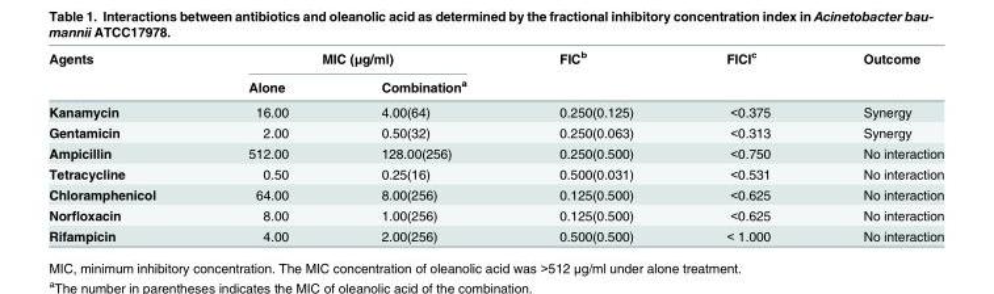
<table><thead><tr><td rowspan="2">Agents</td><td colspan="2">MIC (μg/ml)</td><td rowspan="2">FIC<sup>b</sup></td><td rowspan="2">FICI<sup>c</sup></td><td rowspan="2">Outcome</td></tr><tr><td>Alone</td><td>Combination<sup>a</sup></td></tr></thead><tbody><tr><td>Kanamycin</td><td>16.00</td><td>4.00(64)</td><td>0.250(0.125)</td><td>&lt;0.375</td><td>Synergy</td></tr><tr><td>Gentamicin</td><td>2.00</td><td>0.50(32)</td><td>0.250(0.063)</td><td>&lt;0.313</td><td>Synergy</td></tr><tr><td>Ampicillin</td><td>512.00</td><td>128.00(256)</td><td>0.250(0.500)</td><td>&lt;0.750</td><td>No interaction</td></tr><tr><td>Tetracycline</td><td>0.50</td><td>0.25(16)</td><td>0.500(0.031)</td><td>&lt;0.531</td><td>No interaction</td></tr><tr><td>Chloramphenicol</td><td>64.00</td><td>8.00(256)</td><td>0.125(0.500)</td><td>&lt;0.625</td><td>No interaction</td></tr><tr><td>Norfloxacin</td><td>8.00</td><td>1.00(256)</td><td>0.125(0.500)</td><td>&lt;0.625</td><td>No interaction</td></tr><tr><td>Rifampicin</td><td>4.00</td><td>2.00(256)</td><td>0.500(0.500)</td><td>&lt; 1.000</td><td>No interaction</td></tr></tbody></table>